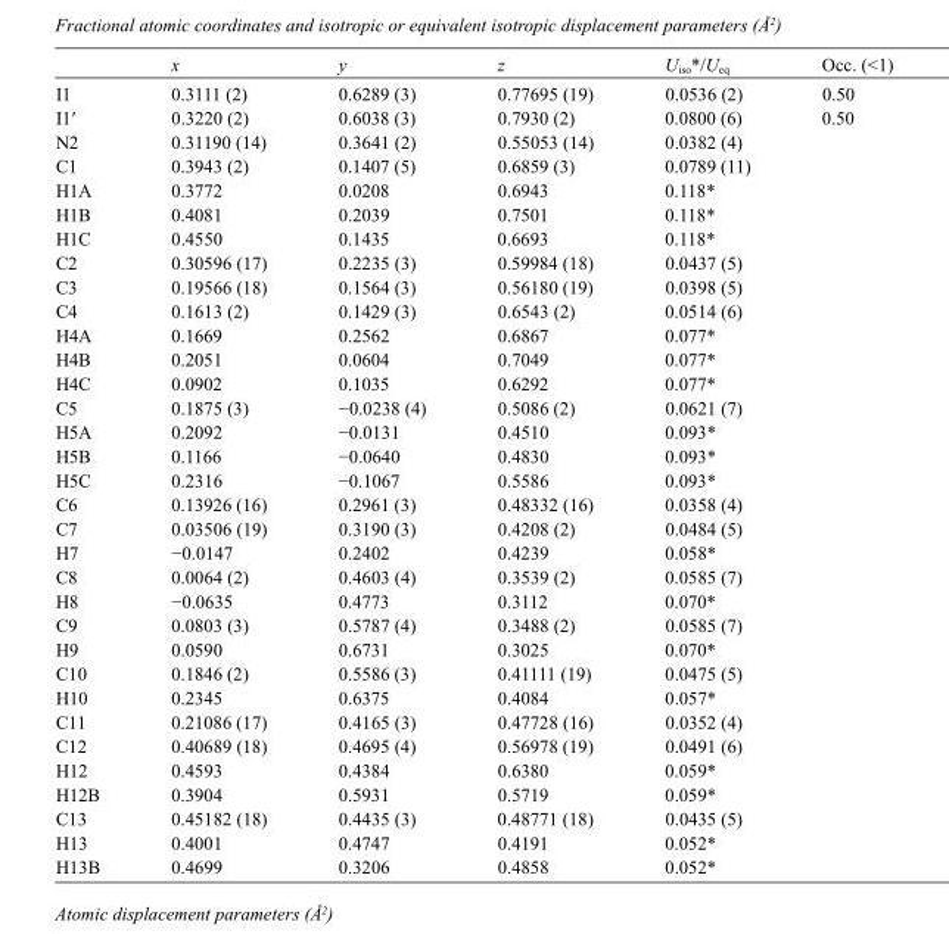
<table><thead><tr><td></td><td>x</td><td>y</td><td>z</td><td>U<sub>iso</sub>*/U<sub>eq</sub></td><td>Occ. (&lt;1)</td></tr></thead><tbody><tr><td>I1</td><td>0.3111 (2)</td><td>0.6289 (3)</td><td>0.77695 (19)</td><td>0.0536 (2)</td><td>0.50</td></tr><tr><td>I1′</td><td>0.3220 (2)</td><td>0.6038 (3)</td><td>0.7930 (2)</td><td>0.0800 (6)</td><td>0.50</td></tr><tr><td>N2</td><td>0.31190 (14)</td><td>0.3641 (2)</td><td>0.55053 (14)</td><td>0.0382 (4)</td><td></td></tr><tr><td>C1</td><td>0.3943 (2)</td><td>0.1407 (5)</td><td>0.6859 (3)</td><td>0.0789 (11)</td><td></td></tr><tr><td>H1A</td><td>0.3772</td><td>0.0208</td><td>0.6943</td><td>0.118*</td><td></td></tr><tr><td>H1B</td><td>0.4081</td><td>0.2039</td><td>0.7501</td><td>0.118*</td><td></td></tr><tr><td>H1C</td><td>0.4550</td><td>0.1435</td><td>0.6693</td><td>0.118*</td><td></td></tr><tr><td>C2</td><td>0.30596 (17)</td><td>0.2235 (3)</td><td>0.59984 (18)</td><td>0.0437 (5)</td><td></td></tr><tr><td>C3</td><td>0.19566 (18)</td><td>0.1564 (3)</td><td>0.56180 (19)</td><td>0.0398 (5)</td><td></td></tr><tr><td>C4</td><td>0.1613 (2)</td><td>0.1429 (3)</td><td>0.6543 (2)</td><td>0.0514 (6)</td><td></td></tr><tr><td>H4A</td><td>0.1669</td><td>0.2562</td><td>0.6867</td><td>0.077*</td><td></td></tr><tr><td>H4B</td><td>0.2051</td><td>0.0604</td><td>0.7049</td><td>0.077*</td><td></td></tr><tr><td>H4C</td><td>0.0902</td><td>0.1035</td><td>0.6292</td><td>0.077*</td><td></td></tr><tr><td>C5</td><td>0.1875 (3)</td><td>−0.0238 (4)</td><td>0.5086 (2)</td><td>0.0621 (7)</td><td></td></tr><tr><td>H5A</td><td>0.2092</td><td>−0.0131</td><td>0.4510</td><td>0.093*</td><td></td></tr><tr><td>H5B</td><td>0.1166</td><td>−0.0640</td><td>0.4830</td><td>0.093*</td><td></td></tr><tr><td>H5C</td><td>0.2316</td><td>−0.1067</td><td>0.5586</td><td>0.093*</td><td></td></tr><tr><td>C6</td><td>0.13926 (16)</td><td>0.2961 (3)</td><td>0.48332 (16)</td><td>0.0358 (4)</td><td></td></tr><tr><td>C7</td><td>0.03506 (19)</td><td>0.3190 (3)</td><td>0.4208 (2)</td><td>0.0484 (5)</td><td></td></tr><tr><td>H7</td><td>−0.0147</td><td>0.2402</td><td>0.4239</td><td>0.058*</td><td></td></tr><tr><td>C8</td><td>0.0064 (2)</td><td>0.4603 (4)</td><td>0.3539 (2)</td><td>0.0585 (7)</td><td></td></tr><tr><td>H8</td><td>−0.0635</td><td>0.4773</td><td>0.3112</td><td>0.070*</td><td></td></tr><tr><td>C9</td><td>0.0803 (3)</td><td>0.5787 (4)</td><td>0.3488 (2)</td><td>0.0585 (7)</td><td></td></tr><tr><td>H9</td><td>0.0590</td><td>0.6731</td><td>0.3025</td><td>0.070*</td><td></td></tr><tr><td>C10</td><td>0.1846 (2)</td><td>0.5586 (3)</td><td>0.41111 (19)</td><td>0.0475 (5)</td><td></td></tr><tr><td>H10</td><td>0.2345</td><td>0.6375</td><td>0.4084</td><td>0.057*</td><td></td></tr><tr><td>C11</td><td>0.21086 (17)</td><td>0.4165 (3)</td><td>0.47728 (16)</td><td>0.0352 (4)</td><td></td></tr><tr><td>C12</td><td>0.40689 (18)</td><td>0.4695 (4)</td><td>0.56978 (19)</td><td>0.0491 (6)</td><td></td></tr><tr><td>H12</td><td>0.4593</td><td>0.4384</td><td>0.6380</td><td>0.059*</td><td></td></tr><tr><td>H12B</td><td>0.3904</td><td>0.5931</td><td>0.5719</td><td>0.059*</td><td></td></tr><tr><td>C13</td><td>0.45182 (18)</td><td>0.4435 (3)</td><td>0.48771 (18)</td><td>0.0435 (5)</td><td></td></tr><tr><td>H13</td><td>0.4001</td><td>0.4747</td><td>0.4191</td><td>0.052*</td><td></td></tr><tr><td>H13B</td><td>0.4699</td><td>0.3206</td><td>0.4858</td><td>0.052*</td><td></td></tr></tbody></table>